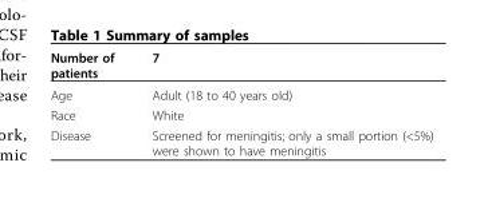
<table><thead><tr><td>Number of patients</td><td>7</td></tr></thead><tbody><tr><td>Age</td><td>Adult (18 to 40 years old)</td></tr><tr><td>Race</td><td>White</td></tr><tr><td>Disease</td><td>Screened for meningitis; only a small portion (&lt;5%) were shown to have meningitis</td></tr></tbody></table>